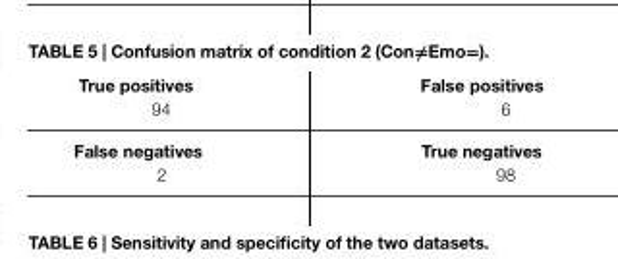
<table><tbody><tr><td>True positives</td><td>False positives</td></tr><tr><td>94</td><td>6</td></tr><tr><td>False negatives</td><td>True negatives</td></tr><tr><td>2</td><td>98</td></tr></tbody></table>